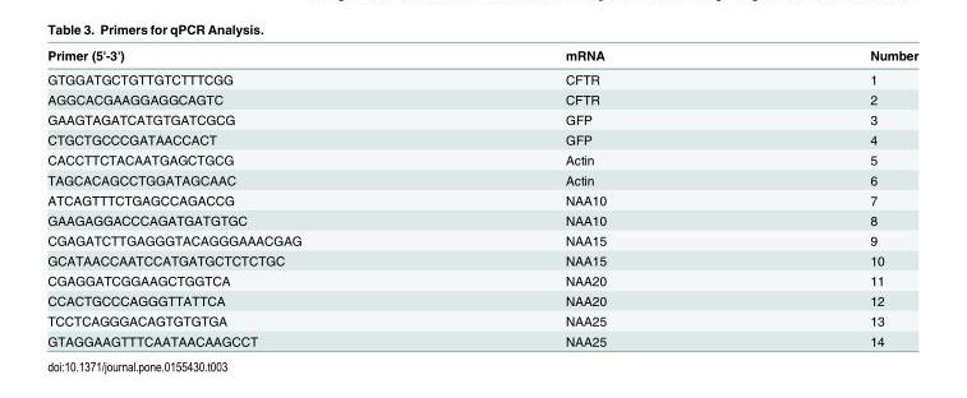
<table><thead><tr><td>Primer (5&#x27;-3&#x27;)</td><td>mRNA</td><td>Number</td></tr></thead><tbody><tr><td>GTGGATGCTGTTGTCTTTCGG</td><td>CFTR</td><td>1</td></tr><tr><td>AGGCACGAAGGAGGCAGTC</td><td>CFTR</td><td>2</td></tr><tr><td>GAAGTAGATCATGTGATCGCG</td><td>GFP</td><td>3</td></tr><tr><td>CTGCTGCCCGATAACCACT</td><td>GFP</td><td>4</td></tr><tr><td>CACCTTCTACAATGAGCTGCG</td><td>Actin</td><td>5</td></tr><tr><td>TAGCACAGCCTGGATAGCAAC</td><td>Actin</td><td>6</td></tr><tr><td>ATCAGTTTCTGAGCCAGACCG</td><td>NAA10</td><td>7</td></tr><tr><td>GAAGAGGACCCAGATGATGTGC</td><td>NAA10</td><td>8</td></tr><tr><td>CGAGATCTTGAGGGTACAGGGAAACGAG</td><td>NAA15</td><td>9</td></tr><tr><td>GCATAACCAATCCATGATGCTCTCTGC</td><td>NAA15</td><td>10</td></tr><tr><td>CGAGGATCGGAAGCTGGTCA</td><td>NAA20</td><td>11</td></tr><tr><td>CCACTGCCCAGGGTTATTCA</td><td>NAA20</td><td>12</td></tr><tr><td>TCCTCAGGGACAGTGTGTGA</td><td>NAA25</td><td>13</td></tr><tr><td>GTAGGAAGTTTCAATAACAAGCCT</td><td>NAA25</td><td>14</td></tr></tbody></table>